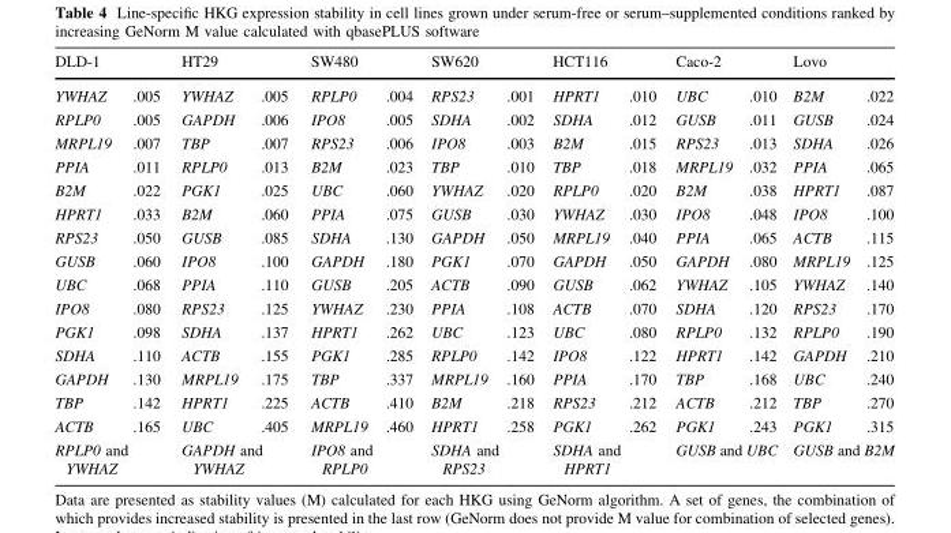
<table><thead><tr><td colspan="2">DLD-1</td><td colspan="2">HT29</td><td colspan="2">SW480</td><td colspan="2">SW620</td><td colspan="2">HCT116</td><td colspan="2">Caco-2</td><td colspan="2">Lovo</td></tr><tr><td>YWHAZ</td><td>.005</td><td>YWHAZ</td><td>.005</td><td>RPLP0</td><td>.004</td><td>RPS23</td><td>.001</td><td>HPRT1</td><td>.010</td><td>UBC</td><td>.010</td><td>B2M</td><td>.022</td></tr></thead><tbody><tr><td>RPLP0</td><td>.005</td><td>GAPDH</td><td>.006</td><td>IPO8</td><td>.005</td><td>SDHA</td><td>.002</td><td>SDHA</td><td>.012</td><td>GUSB</td><td>.011</td><td>GUSB</td><td>.024</td></tr><tr><td>MRPL19</td><td>.007</td><td>TBP</td><td>.007</td><td>RPS23</td><td>.006</td><td>IPO8</td><td>.003</td><td>B2M</td><td>.015</td><td>RPS23</td><td>.013</td><td>SDHA</td><td>.026</td></tr><tr><td>PPIA</td><td>.011</td><td>RPLP0</td><td>.013</td><td>B2M</td><td>.023</td><td>TBP</td><td>.010</td><td>TBP</td><td>.018</td><td>MRPL19</td><td>.032</td><td>PPIA</td><td>.065</td></tr><tr><td>B2M</td><td>.022</td><td>PGK1</td><td>.025</td><td>UBC</td><td>.060</td><td>YWHAZ</td><td>.020</td><td>RPLP0</td><td>.020</td><td>B2M</td><td>.038</td><td>HPRT1</td><td>.087</td></tr><tr><td>HPRT1</td><td>.033</td><td>B2M</td><td>.060</td><td>PPIA</td><td>.075</td><td>GUSB</td><td>.030</td><td>YWHAZ</td><td>.030</td><td>IPO8</td><td>.048</td><td>IPO8</td><td>.100</td></tr><tr><td>RPS23</td><td>.050</td><td>GUSB</td><td>.085</td><td>SDHA</td><td>.130</td><td>GAPDH</td><td>.050</td><td>MRPL19</td><td>.040</td><td>PPIA</td><td>.065</td><td>ACTB</td><td>.115</td></tr><tr><td>GUSB</td><td>.060</td><td>IPO8</td><td>.100</td><td>GAPDH</td><td>.180</td><td>PGK1</td><td>.070</td><td>GAPDH</td><td>.050</td><td>GAPDH</td><td>.080</td><td>MRPL19</td><td>.125</td></tr><tr><td>UBC</td><td>.068</td><td>PPIA</td><td>.110</td><td>GUSB</td><td>.205</td><td>ACTB</td><td>.090</td><td>GUSB</td><td>.062</td><td>YWHAZ</td><td>.105</td><td>YWHAZ</td><td>.140</td></tr><tr><td>IPO8</td><td>.080</td><td>RPS23</td><td>.125</td><td>YWHAZ</td><td>.230</td><td>PPIA</td><td>.108</td><td>ACTB</td><td>.070</td><td>SDHA</td><td>.120</td><td>RPS23</td><td>.170</td></tr><tr><td>PGK1</td><td>.098</td><td>SDHA</td><td>.137</td><td>HPRT1</td><td>.262</td><td>UBC</td><td>.123</td><td>UBC</td><td>.080</td><td>RPLP0</td><td>.132</td><td>RPLP0</td><td>.190</td></tr><tr><td>SDHA</td><td>.110</td><td>ACTB</td><td>.155</td><td>PGK1</td><td>.285</td><td>RPLP0</td><td>.142</td><td>IPO8</td><td>.122</td><td>HPRT1</td><td>.142</td><td>GAPDH</td><td>.210</td></tr><tr><td>GAPDH</td><td>.130</td><td>MRPL19</td><td>.175</td><td>TBP</td><td>.337</td><td>MRPL19</td><td>.160</td><td>PPIA</td><td>.170</td><td>TBP</td><td>.168</td><td>UBC</td><td>.240</td></tr><tr><td>TBP</td><td>.142</td><td>HPRT1</td><td>.225</td><td>ACTB</td><td>.410</td><td>B2M</td><td>.218</td><td>RPS23</td><td>.212</td><td>ACTB</td><td>.212</td><td>TBP</td><td>.270</td></tr><tr><td>ACTB</td><td>.165</td><td>UBC</td><td>.405</td><td>MRPL19</td><td>.460</td><td>HPRT1</td><td>.258</td><td>PGK1</td><td>.262</td><td>PGK1</td><td>.243</td><td>PGK1</td><td>.315</td></tr><tr><td colspan="2">RPLP0 and YWHAZ</td><td colspan="2">GAPDH and YWHAZ</td><td colspan="2">IPO8 and RPLP0</td><td colspan="2">SDHA and RPS23</td><td colspan="2">SDHA and HPRT1</td><td colspan="2">GUSB and UBC</td><td colspan="2">GUSB and B2M</td></tr></tbody></table>